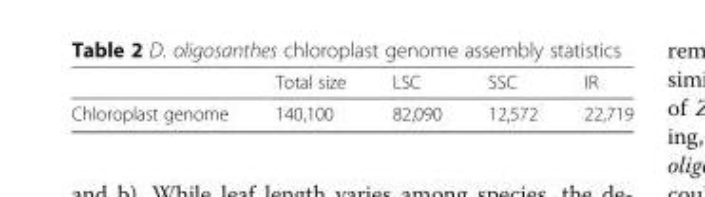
<table><thead><tr><td></td><td>Total size</td><td>LSC</td><td>SSC</td><td>IR</td></tr></thead><tbody><tr><td>Chloroplast genome</td><td>140,100</td><td>82,090</td><td>12,572</td><td>22,719</td></tr></tbody></table>